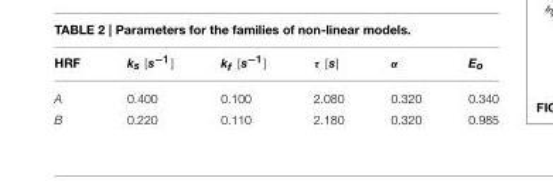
<table><thead><tr><td>HRF</td><td>k<sub>s</sub> [s<sup>−1</sup>]</td><td>k<sub>f</sub> [s<sup>−1</sup>]</td><td>τ [s]</td><td>α</td><td>E<sub>o</sub></td></tr></thead><tbody><tr><td>A</td><td>0.400</td><td>0.100</td><td>2.080</td><td>0.320</td><td>0.340</td></tr><tr><td>B</td><td>0.220</td><td>0.110</td><td>2.180</td><td>0.320</td><td>0.985</td></tr></tbody></table>